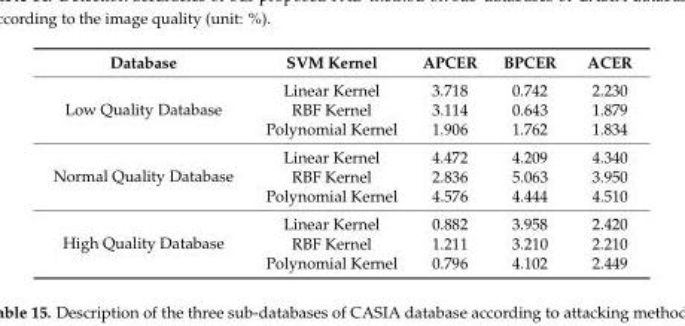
<table><thead><tr><td>Database</td><td>SVM Kernel</td><td>APCER</td><td>BPCER</td><td>ACER</td></tr></thead><tbody><tr><td rowspan="3">Low Quality Database</td><td>Linear Kernel</td><td>3.718</td><td>0.742</td><td>2.230</td></tr><tr><td>RBF Kernel</td><td>3.114</td><td>0.643</td><td>1.879</td></tr><tr><td>Polynomial Kernel</td><td>1.906</td><td>1.762</td><td>1.834</td></tr><tr><td rowspan="3">Normal Quality Database</td><td>Linear Kernel</td><td>4.472</td><td>4.209</td><td>4.340</td></tr><tr><td>RBF Kernel</td><td>2.836</td><td>5.063</td><td>3.950</td></tr><tr><td>Polynomial Kernel</td><td>4.576</td><td>4.444</td><td>4.510</td></tr><tr><td rowspan="3">High Quality Database</td><td>Linear Kernel</td><td>0.882</td><td>3.958</td><td>2.420</td></tr><tr><td>RBF Kernel</td><td>1.211</td><td>3.210</td><td>2.210</td></tr><tr><td>Polynomial Kernel</td><td>0.796</td><td>4.102</td><td>2.449</td></tr></tbody></table>